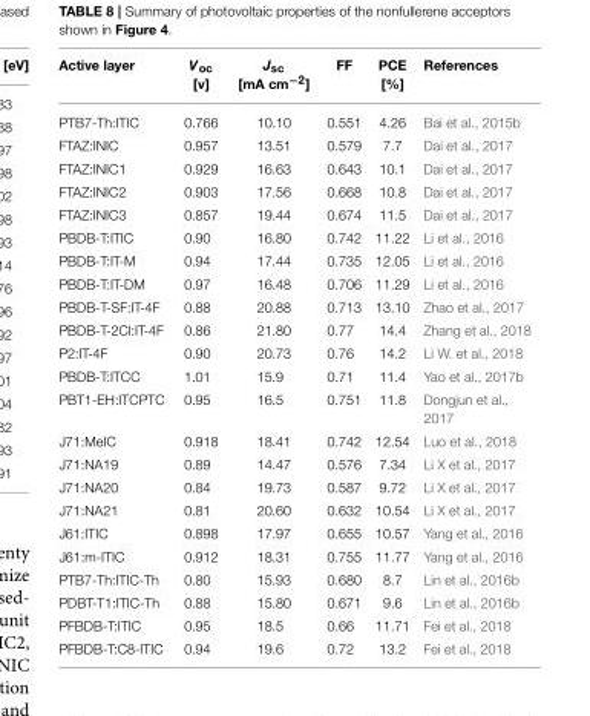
<table><thead><tr><td>Active layer</td><td>V<sub>oc</sub> [v]</td><td>J<sub>sc</sub> [mA cm<sup>−2</sup>]</td><td>FF</td><td>PCE [%]</td><td>References</td></tr></thead><tbody><tr><td>PTB7-Th:ITIC</td><td>0.766</td><td>10.10</td><td>0.551</td><td>4.26</td><td>Bai et al., 2015b</td></tr><tr><td>FTAZ:INIC</td><td>0.957</td><td>13.51</td><td>0.579</td><td>7.7</td><td>Dai et al., 2017</td></tr><tr><td>FTAZ:INIC1</td><td>0.929</td><td>16.63</td><td>0.643</td><td>10.1</td><td>Dai et al., 2017</td></tr><tr><td>FTAZ:INIC2</td><td>0.903</td><td>17.56</td><td>0.668</td><td>10.8</td><td>Dai et al., 2017</td></tr><tr><td>FTAZ:INIC3</td><td>0.857</td><td>19.44</td><td>0.674</td><td>11.5</td><td>Dai et al., 2017</td></tr><tr><td>PBDB-T:ITIC</td><td>0.90</td><td>16.80</td><td>0.742</td><td>11.22</td><td>Li et al., 2016</td></tr><tr><td>PBDB-T:IT-M</td><td>0.94</td><td>17.44</td><td>0.735</td><td>12.05</td><td>Li et al., 2016</td></tr><tr><td>PBDB-T:IT-DM</td><td>0.97</td><td>16.48</td><td>0.706</td><td>11.29</td><td>Li et al., 2016</td></tr><tr><td>PBDB-T-SF:IT-4F</td><td>0.88</td><td>20.88</td><td>0.713</td><td>13.10</td><td>Zhao et al., 2017</td></tr><tr><td>PBDB-T-2Cl:IT-4F</td><td>0.86</td><td>21.80</td><td>0.77</td><td>14.4</td><td>Zhang et al., 2018</td></tr><tr><td>P2:IT-4F</td><td>0.90</td><td>20.73</td><td>0.76</td><td>14.2</td><td>Li W. et al., 2018</td></tr><tr><td>PBDB-T:ITCC</td><td>1.01</td><td>15.9</td><td>0.71</td><td>11.4</td><td>Yao et al., 2017b</td></tr><tr><td>PBT1-EH:ITCPTC</td><td>0.95</td><td>16.5</td><td>0.751</td><td>11.8</td><td>Dongjun et al., 2017</td></tr><tr><td>J71:MeIC</td><td>0.918</td><td>18.41</td><td>0.742</td><td>12.54</td><td>Luo et al., 2018</td></tr><tr><td>J71:NA19</td><td>0.89</td><td>14.47</td><td>0.576</td><td>7.34</td><td>Li X et al., 2017</td></tr><tr><td>J71:NA20</td><td>0.84</td><td>19.73</td><td>0.587</td><td>9.72</td><td>Li X et al., 2017</td></tr><tr><td>J71:NA21</td><td>0.81</td><td>20.60</td><td>0.632</td><td>10.54</td><td>Li X et al., 2017</td></tr><tr><td>J61:ITIC</td><td>0.898</td><td>17.97</td><td>0.655</td><td>10.57</td><td>Yang et al., 2016</td></tr><tr><td>J61:m-ITIC</td><td>0.912</td><td>18.31</td><td>0.755</td><td>11.77</td><td>Yang et al., 2016</td></tr><tr><td>PTB7-Th:ITIC-Th</td><td>0.80</td><td>15.93</td><td>0.680</td><td>8.7</td><td>Lin et al., 2016b</td></tr><tr><td>PDBT-T1:ITIC-Th</td><td>0.88</td><td>15.80</td><td>0.671</td><td>9.6</td><td>Lin et al., 2016b</td></tr><tr><td>PFBDB-T:ITIC</td><td>0.95</td><td>18.5</td><td>0.66</td><td>11.71</td><td>Fei et al., 2018</td></tr><tr><td>PFBDB-T:C8-ITIC</td><td>0.94</td><td>19.6</td><td>0.72</td><td>13.2</td><td>Fei et al., 2018</td></tr></tbody></table>